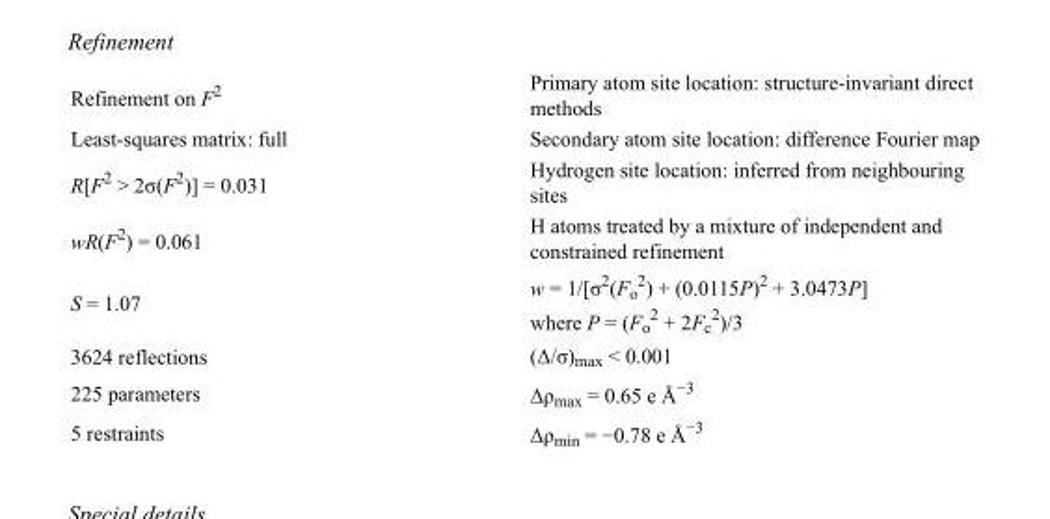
<table><tbody><tr><td>Refinement on F<sup>2</sup></td><td>Primary atom site location: structure-invariant direct methods</td></tr><tr><td>Least-squares matrix: full</td><td>Secondary atom site location: difference Fourier map</td></tr><tr><td>R[F<sup>2</sup> &gt; 2σ(F<sup>2</sup>)] = 0.031</td><td>Hydrogen site location: inferred from neighbouring sites</td></tr><tr><td>wR(F<sup>2</sup>) = 0.061</td><td>H atoms treated by a mixture of independent and constrained refinement</td></tr><tr><td>S = 1.07</td><td>w = 1/[σ<sup>2</sup>(F<sub>o</sub> <sup>2</sup>) + (0.0115P)<sup>2</sup> + 3.0473P] where P = (F<sub>o</sub> <sup>2</sup> + 2F<sub>c</sub> <sup>2</sup>)/3</td></tr><tr><td>3624 reflections</td><td>(Δ/σ)<sub>max</sub> &lt; 0.001</td></tr><tr><td>225 parameters</td><td>Δρ<sub>max</sub> = 0.65 e Å<sup>−3</sup></td></tr><tr><td>5 restraints</td><td>Δρ<sub>min</sub> = −0.78 e Å<sup>−3</sup></td></tr></tbody></table>